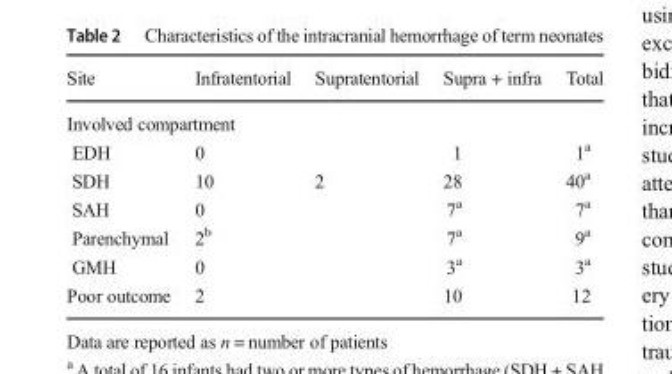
<table><thead><tr><td>Site</td><td>Infratentorial</td><td>Supratentorial</td><td>Supra + infra</td><td>Total</td></tr></thead><tbody><tr><td colspan="5">Involved compartment</td></tr><tr><td>EDH</td><td>0</td><td></td><td>1</td><td>1<sup>a</sup></td></tr><tr><td>SDH</td><td>10</td><td>2</td><td>28</td><td>40<sup>a</sup></td></tr><tr><td>SAH</td><td>0</td><td></td><td>7<sup>a</sup></td><td>7<sup>a</sup></td></tr><tr><td>Parenchymal</td><td>2<sup>b</sup></td><td></td><td>7<sup>a</sup></td><td>9<sup>a</sup></td></tr><tr><td>GMH</td><td>0</td><td></td><td>3<sup>a</sup></td><td>3<sup>a</sup></td></tr><tr><td>Poor outcome</td><td>2</td><td></td><td>10</td><td>12</td></tr></tbody></table>